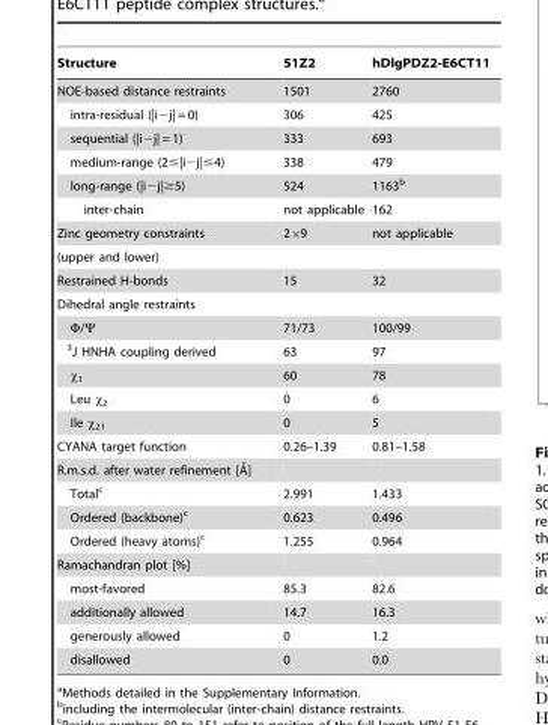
<table><thead><tr><td>Structure</td><td>51Z2</td><td>hDlgPDZ2-E6CT11</td></tr></thead><tbody><tr><td>NOE-based distance restraints</td><td>1501</td><td>2760</td></tr><tr><td>intra-residual (|i−j| = 0)</td><td>306</td><td>425</td></tr><tr><td>sequential (|i−j| = 1)</td><td>333</td><td>693</td></tr><tr><td>medium-range (2≤|i−j|≤4)</td><td>338</td><td>479</td></tr><tr><td>long-range (|i−j|≥5)</td><td>524</td><td>1163<sup>b</sup></td></tr><tr><td>inter-chain</td><td>not applicable</td><td>162</td></tr><tr><td>Zinc geometry constraints</td><td>2×9</td><td>not applicable</td></tr><tr><td colspan="3">(upper and lower)</td></tr><tr><td>Restrained H-bonds</td><td>15</td><td>32</td></tr><tr><td colspan="3">Dihedral angle restraints</td></tr><tr><td>Φ/Ψ</td><td>71/73</td><td>100/99</td></tr><tr><td><sup>3</sup>J HNHA coupling derived</td><td>63</td><td>97</td></tr><tr><td>χ<sub>1</sub></td><td>60</td><td>78</td></tr><tr><td>Leu χ<sub>2</sub></td><td>0</td><td>6</td></tr><tr><td>Ile χ<sub>21</sub></td><td>0</td><td>5</td></tr><tr><td>CYANA target function</td><td>0.26–1.39</td><td>0.81–1.58</td></tr><tr><td colspan="3">R.m.s.d. after water refinement [A˚]</td></tr><tr><td>Total<sup>c</sup></td><td>2.991</td><td>1.433</td></tr><tr><td>Ordered (backbone)<sup>c</sup></td><td>0.623</td><td>0.496</td></tr><tr><td>Ordered (heavy atoms)<sup>c</sup></td><td>1.255</td><td>0.964</td></tr><tr><td colspan="3">Ramachandran plot [%]</td></tr><tr><td>most-favored</td><td>85.3</td><td>82.6</td></tr><tr><td>additionally allowed</td><td>14.7</td><td>16.3</td></tr><tr><td>generously allowed</td><td>0</td><td>1.2</td></tr><tr><td>disallowed</td><td>0</td><td>0.0</td></tr></tbody></table>